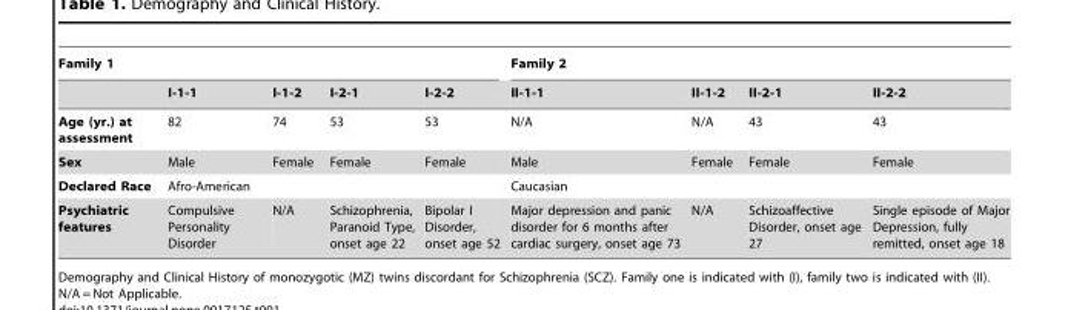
<table><thead><tr><td colspan="5">Family 1</td><td colspan="4">Family 2</td></tr><tr><td></td><td>I-1-1</td><td>I-1-2</td><td>I-2-1</td><td>I-2-2</td><td>II-1-1</td><td>II-1-2</td><td>II-2-1</td><td>II-2-2</td></tr></thead><tbody><tr><td>Age (yr.) at assessment</td><td>82</td><td>74</td><td>53</td><td>53</td><td>N/A</td><td>N/A</td><td>43</td><td>43</td></tr><tr><td>Sex</td><td>Male</td><td>Female</td><td>Female</td><td>Female</td><td>Male</td><td>Female</td><td>Female</td><td>Female</td></tr><tr><td>Declared Race</td><td colspan="4">Afro-American</td><td colspan="4">Caucasian</td></tr><tr><td>Psychiatric features</td><td>Compulsive Personality Disorder</td><td>N/A</td><td>Schizophrenia, Paranoid Type, onset age 22</td><td>Bipolar I Disorder, onset age 52</td><td>Major depression and panic disorder for 6 months after cardiac surgery, onset age 73</td><td>N/A</td><td>Schizoaffective Disorder, onset age 27</td><td>Single episode of Major Depression, fully remitted, onset age 18</td></tr></tbody></table>